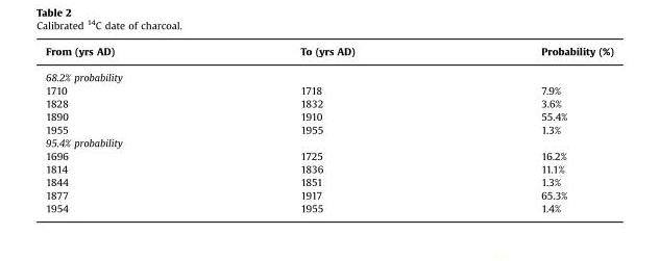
<table><thead><tr><td>From (yrs AD)</td><td>To (yrs AD)</td><td>Probability (%)</td></tr></thead><tbody><tr><td colspan="3">68.2% probability</td></tr><tr><td>1710</td><td>1718</td><td>7.9%</td></tr><tr><td>1828</td><td>1832</td><td>3.6%</td></tr><tr><td>1890</td><td>1910</td><td>55.4%</td></tr><tr><td>1955</td><td>1955</td><td>1.3%</td></tr><tr><td colspan="3">95.4% probability</td></tr><tr><td>1696</td><td>1725</td><td>16.2%</td></tr><tr><td>1814</td><td>1836</td><td>11.1%</td></tr><tr><td>1844</td><td>1851</td><td>1.3%</td></tr><tr><td>1877</td><td>1917</td><td>65.3%</td></tr><tr><td>1954</td><td>1955</td><td>1.4%</td></tr></tbody></table>